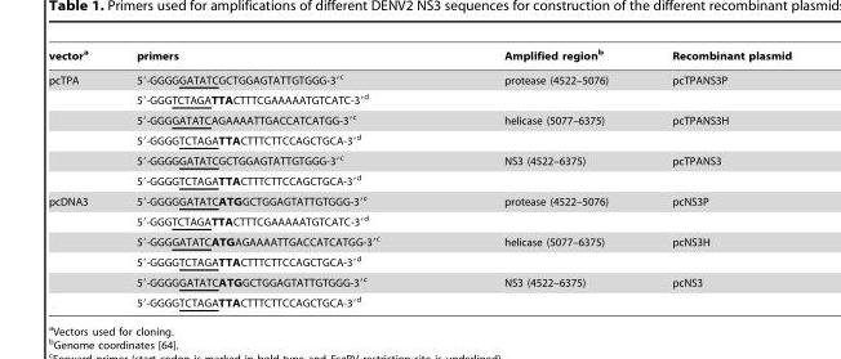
<table><thead><tr><td>vector<sup>a</sup></td><td>primers</td><td>Amplified region<sup>b</sup></td><td>Recombinant plasmid</td></tr></thead><tbody><tr><td rowspan="6">pcTPA</td><td>5′-GGGGGATATCGCTGGAGTATTGTGGG-3′<sup>c</sup></td><td>protease (4522–5076)</td><td>pcTPANS3P</td></tr><tr><td>5′-GGGTCTAGATTACTTTCGAAAAATGTCATC-3′<sup>d</sup></td><td></td><td></td></tr><tr><td>5′-GGGGATATCAGAAAATTGACCATCATGG-3′<sup>c</sup></td><td>helicase (5077–6375)</td><td>pcTPANS3H</td></tr><tr><td>5′-GGGGTCTAGATTACTTTCTTCCAGCTGCA-3′<sup>d</sup></td><td></td><td></td></tr><tr><td>5′-GGGGGATATCGCTGGAGTATTGTGGG-3′<sup>c</sup></td><td>NS3 (4522–6375)</td><td>pcTPANS3</td></tr><tr><td>5′-GGGGTCTAGATTACTTTCTTCCAGCTGCA-3′<sup>d</sup></td><td></td><td></td></tr><tr><td rowspan="6">pcDNA3</td><td>5′-GGGGGATATCATGGCTGGAGTATTGTGGG-3′<sup>c</sup></td><td>protease (4522–5076)</td><td>pcNS3P</td></tr><tr><td>5′-GGGTCTAGATTACTTTCGAAAAATGTCATC-3′<sup>d</sup></td><td></td><td></td></tr><tr><td>5′-GGGGATATCATGAGAAAATTGACCATCATGG-3′<sup>c</sup></td><td>helicase (5077–6375)</td><td>pcNS3H</td></tr><tr><td>5′-GGGGTCTAGATTACTTTCTTCCAGCTGCA-3′<sup>d</sup></td><td></td><td></td></tr><tr><td>5′-GGGGGATATCATGGCTGGAGTATTGTGGG-3′<sup>c</sup></td><td>NS3 (4522–6375)</td><td>pcNS3</td></tr><tr><td>5′-GGGGTCTAGATTACTTTCTTCCAGCTGCA-3′<sup>d</sup></td><td></td><td></td></tr></tbody></table>